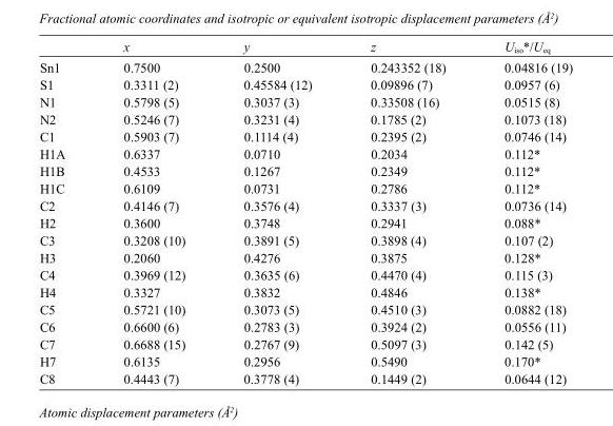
<table><thead><tr><td></td><td>x</td><td>y</td><td>z</td><td>U<sub>iso</sub>*/U<sub>eq</sub></td></tr></thead><tbody><tr><td>Sn1</td><td>0.7500</td><td>0.2500</td><td>0.243352 (18)</td><td>0.04816 (19)</td></tr><tr><td>S1</td><td>0.3311 (2)</td><td>0.45584 (12)</td><td>0.09896 (7)</td><td>0.0957 (6)</td></tr><tr><td>N1</td><td>0.5798 (5)</td><td>0.3037 (3)</td><td>0.33508 (16)</td><td>0.0515 (8)</td></tr><tr><td>N2</td><td>0.5246 (7)</td><td>0.3231 (4)</td><td>0.1785 (2)</td><td>0.1073 (18)</td></tr><tr><td>C1</td><td>0.5903 (7)</td><td>0.1114 (4)</td><td>0.2395 (2)</td><td>0.0746 (14)</td></tr><tr><td>H1A</td><td>0.6337</td><td>0.0710</td><td>0.2034</td><td>0.112*</td></tr><tr><td>H1B</td><td>0.4533</td><td>0.1267</td><td>0.2349</td><td>0.112*</td></tr><tr><td>H1C</td><td>0.6109</td><td>0.0731</td><td>0.2786</td><td>0.112*</td></tr><tr><td>C2</td><td>0.4146 (7)</td><td>0.3576 (4)</td><td>0.3337 (3)</td><td>0.0736 (14)</td></tr><tr><td>H2</td><td>0.3600</td><td>0.3748</td><td>0.2941</td><td>0.088*</td></tr><tr><td>C3</td><td>0.3208 (10)</td><td>0.3891 (5)</td><td>0.3898 (4)</td><td>0.107 (2)</td></tr><tr><td>H3</td><td>0.2060</td><td>0.4276</td><td>0.3875</td><td>0.128*</td></tr><tr><td>C4</td><td>0.3969 (12)</td><td>0.3635 (6)</td><td>0.4470 (4)</td><td>0.115 (3)</td></tr><tr><td>H4</td><td>0.3327</td><td>0.3832</td><td>0.4846</td><td>0.138*</td></tr><tr><td>C5</td><td>0.5721 (10)</td><td>0.3073 (5)</td><td>0.4510 (3)</td><td>0.0882 (18)</td></tr><tr><td>C6</td><td>0.6600 (6)</td><td>0.2783 (3)</td><td>0.3924 (2)</td><td>0.0556 (11)</td></tr><tr><td>C7</td><td>0.6688 (15)</td><td>0.2767 (9)</td><td>0.5097 (3)</td><td>0.142 (5)</td></tr><tr><td>H7</td><td>0.6135</td><td>0.2956</td><td>0.5490</td><td>0.170*</td></tr><tr><td>C8</td><td>0.4443 (7)</td><td>0.3778 (4)</td><td>0.1449 (2)</td><td>0.0644 (12)</td></tr></tbody></table>